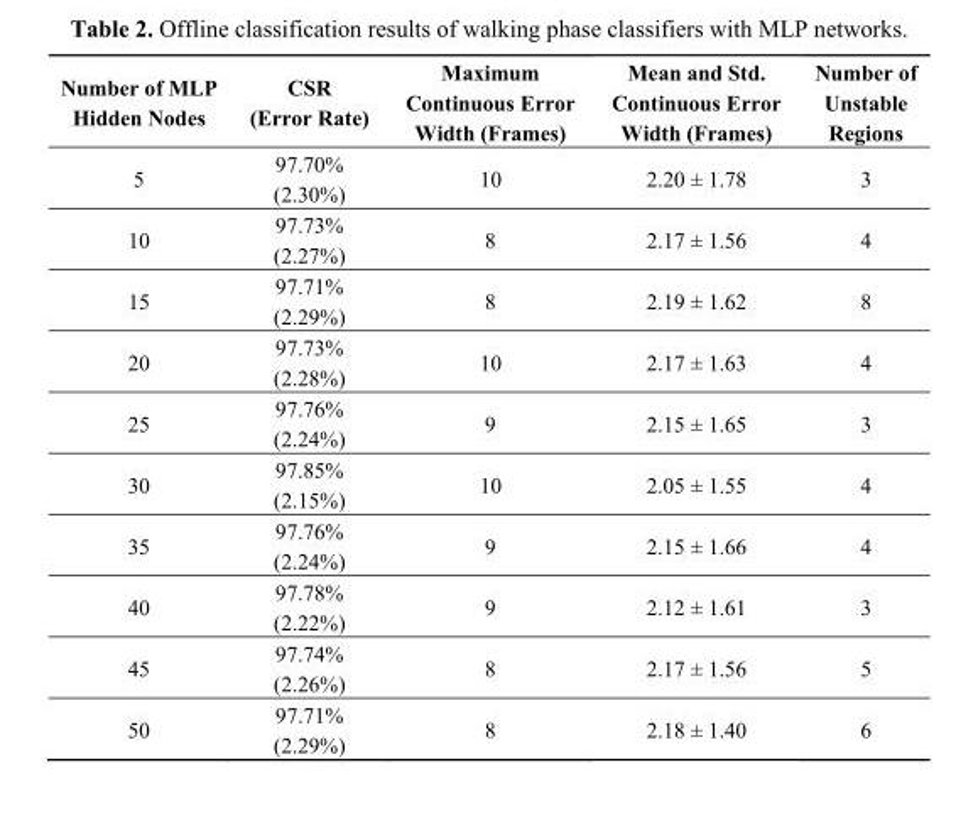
<table><thead><tr><td>Number of MLP Hidden Nodes</td><td>CSR (Error Rate)</td><td>Maximum Continuous Error Width (Frames)</td><td>Mean and Std. Continuous Error Width (Frames)</td><td>Number of Unstable Regions</td></tr></thead><tbody><tr><td>5</td><td>97.70% (2.30%)</td><td>10</td><td>2.20 ± 1.78</td><td>3</td></tr><tr><td>10</td><td>97.73% (2.27%)</td><td>8</td><td>2.17 ± 1.56</td><td>4</td></tr><tr><td>15</td><td>97.71% (2.29%)</td><td>8</td><td>2.19 ± 1.62</td><td>8</td></tr><tr><td>20</td><td>97.73% (2.28%)</td><td>10</td><td>2.17 ± 1.63</td><td>4</td></tr><tr><td>25</td><td>97.76% (2.24%)</td><td>9</td><td>2.15 ± 1.65</td><td>3</td></tr><tr><td>30</td><td>97.85% (2.15%)</td><td>10</td><td>2.05 ± 1.55</td><td>4</td></tr><tr><td>35</td><td>97.76% (2.24%)</td><td>9</td><td>2.15 ± 1.66</td><td>4</td></tr><tr><td>40</td><td>97.78% (2.22%)</td><td>9</td><td>2.12 ± 1.61</td><td>3</td></tr><tr><td>45</td><td>97.74% (2.26%)</td><td>8</td><td>2.17 ± 1.56</td><td>5</td></tr><tr><td>50</td><td>97.71% (2.29%)</td><td>8</td><td>2.18 ± 1.40</td><td>6</td></tr></tbody></table>